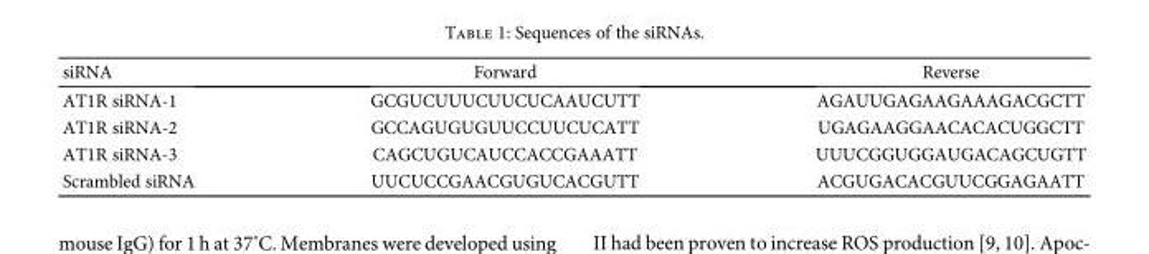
<table><thead><tr><td>siRNA</td><td>Forward</td><td>Reverse</td></tr></thead><tbody><tr><td>AT1R siRNA-1</td><td>GCGUCUUUCUUCUCAAUCUTT</td><td>AGAUUGAGAAGAAAGACGCTT</td></tr><tr><td>AT1R siRNA-2</td><td>GCCAGUGUGUUCCUUCUCATT</td><td>UGAGAAGGAACACACUGGCTT</td></tr><tr><td>AT1R siRNA-3</td><td>CAGCUGUCAUCCACCGAAATT</td><td>UUUCGGUGGAUGACAGCUGTT</td></tr><tr><td>Scrambled siRNA</td><td>UUCUCCGAACGUGUCACGUTT</td><td>ACGUGACACGUUCGGAGAATT</td></tr></tbody></table>